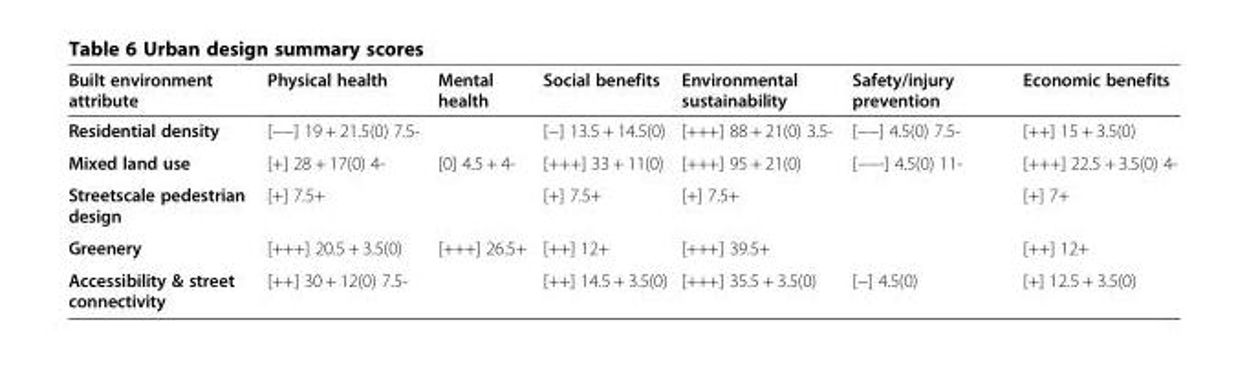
<table><thead><tr><td>Built environment attribute</td><td>Physical health</td><td>Mental health</td><td>Social benefits</td><td>Environmental sustainability</td><td>Safety/injury prevention</td><td>Economic benefits</td></tr></thead><tbody><tr><td>Residential density</td><td>[−−] 19 + 21.5(0) 7.5-</td><td></td><td>[−] 13.5 + 14.5(0)</td><td>[+++] 88 + 21(0) 3.5-</td><td>[−−] 4.5(0) 7.5-</td><td>[++] 15 + 3.5(0)</td></tr><tr><td>Mixed land use</td><td>[+] 28 + 17(0) 4-</td><td>[0] 4.5 + 4-</td><td>[+++] 33 + 11(0)</td><td>[+++] 95 + 21(0)</td><td>[−−-] 4.5(0) 11-</td><td>[+++] 22.5 + 3.5(0) 4-</td></tr><tr><td>Streetscale pedestrian design</td><td>[+] 7.5+</td><td></td><td>[+] 7.5+</td><td>[+] 7.5+</td><td></td><td>[+] 7+</td></tr><tr><td>Greenery</td><td>[+++] 20.5 + 3.5(0)</td><td>[+++] 26.5+</td><td>[++] 12+</td><td>[+++] 39.5+</td><td></td><td>[++] 12+</td></tr><tr><td>Accessibility &amp; street connectivity</td><td>[++] 30 + 12(0) 7.5-</td><td></td><td>[++] 14.5 + 3.5(0)</td><td>[+++] 35.5 + 3.5(0)</td><td>[−] 4.5(0)</td><td>[+] 12.5 + 3.5(0)</td></tr></tbody></table>